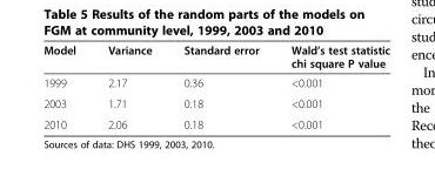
<table><thead><tr><td>Model</td><td>Variance</td><td>Standard error</td><td>Wald’s test statistic chi square P value</td></tr></thead><tbody><tr><td>1999</td><td>2.17</td><td>0.36</td><td>&lt;0.001</td></tr><tr><td>2003</td><td>1.71</td><td>0.18</td><td>&lt;0.001</td></tr><tr><td>2010</td><td>2.06</td><td>0.18</td><td>&lt;0.001</td></tr></tbody></table>